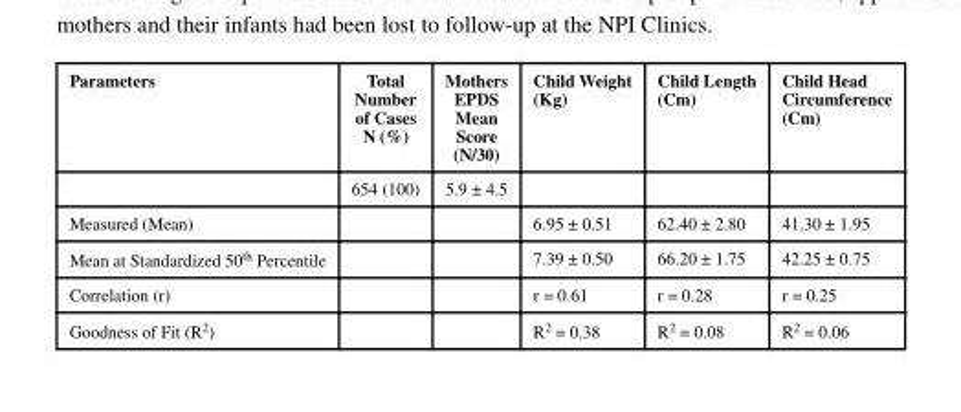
<table><thead><tr><td>Parameters</td><td>Total Number of Cases N (%)</td><td>Mothers EPDS Mean Score (N/30)</td><td>Child Weight (Kg)</td><td>Child Length (Cm)</td><td>Child Head Circumference (Cm)</td></tr></thead><tbody><tr><td></td><td>654 (100)</td><td>5.9 ± 4.5</td><td></td><td></td><td></td></tr><tr><td>Measured (Mean)</td><td></td><td></td><td>6.95 ± 0.51</td><td>62.40 ± 2.80</td><td>41.30 ± 1.95</td></tr><tr><td>Mean at Standardized 50<sup>th</sup> Percentile</td><td></td><td></td><td>7.39 ± 0.50</td><td>66.20 ± 1.75</td><td>42.25 ± 0.75</td></tr><tr><td>Correlation (r)</td><td></td><td></td><td>r = 0.61</td><td>r = 0.28</td><td>r = 0.25</td></tr><tr><td>Goodness of Fit (R<sup>2</sup>)</td><td></td><td></td><td>R<sup>2</sup> = 0.38</td><td>R<sup>2</sup> = 0.08</td><td>R<sup>2</sup> = 0.06</td></tr></tbody></table>